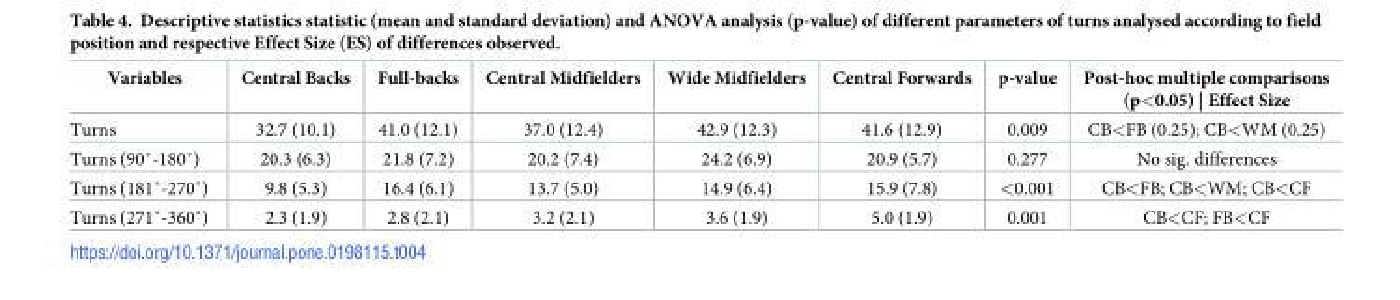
<table><thead><tr><td>Variables</td><td>Central Backs</td><td>Full-backs</td><td>Central Midfielders</td><td>Wide Midfielders</td><td>Central Forwards</td><td>p-value</td><td>Post-hoc multiple comparisons (p&lt;0.05) | Effect Size</td></tr></thead><tbody><tr><td>Turns</td><td>32.7 (10.1)</td><td>41.0 (12.1)</td><td>37.0 (12.4)</td><td>42.9 (12.3)</td><td>41.6 (12.9)</td><td>0.009</td><td>CB&lt;FB (0.25); CB&lt;WM (0.25)</td></tr><tr><td>Turns (90˚-180˚)</td><td>20.3 (6.3)</td><td>21.8 (7.2)</td><td>20.2 (7.4)</td><td>24.2 (6.9)</td><td>20.9 (5.7)</td><td>0.277</td><td>No sig. differences</td></tr><tr><td>Turns (181˚-270˚)</td><td>9.8 (5.3)</td><td>16.4 (6.1)</td><td>13.7 (5.0)</td><td>14.9 (6.4)</td><td>15.9 (7.8)</td><td>&lt;0.001</td><td>CB&lt;FB; CB&lt;WM; CB&lt;CF</td></tr><tr><td>Turns (271˚-360˚)</td><td>2.3 (1.9)</td><td>2.8 (2.1)</td><td>3.2 (2.1)</td><td>3.6 (1.9)</td><td>5.0 (1.9)</td><td>0.001</td><td>CB&lt;CF; FB&lt;CF</td></tr></tbody></table>